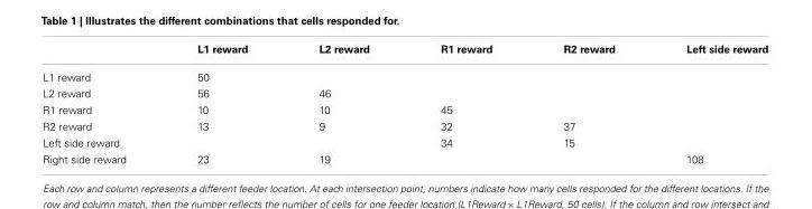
<table><thead><tr><td></td><td>L1 reward</td><td>L2 reward</td><td>R1 reward</td><td>R2 reward</td><td>Left side reward</td></tr></thead><tbody><tr><td>L1 reward</td><td>50</td><td></td><td></td><td></td><td></td></tr><tr><td>L2 reward</td><td>56</td><td>46</td><td></td><td></td><td></td></tr><tr><td>R1 reward</td><td>10</td><td>10</td><td>45</td><td></td><td></td></tr><tr><td>R2 reward</td><td>13</td><td>9</td><td>32</td><td>37</td><td></td></tr><tr><td>Left side reward</td><td></td><td></td><td>34</td><td>15</td><td></td></tr><tr><td>Right side reward</td><td>23</td><td>19</td><td></td><td></td><td>108</td></tr></tbody></table>